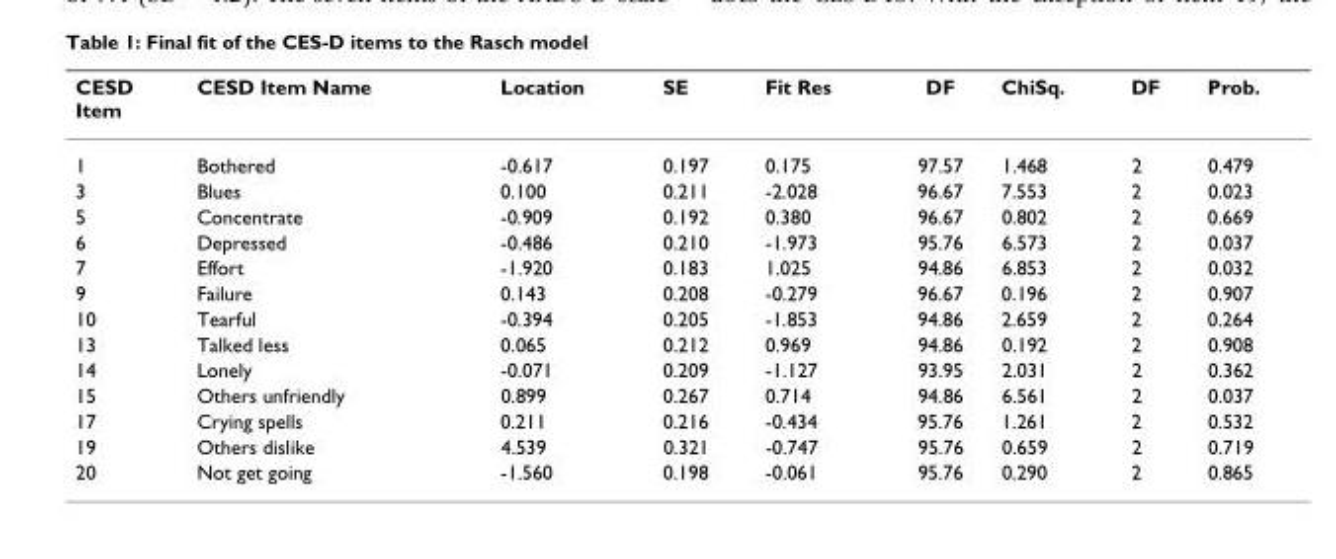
<table><thead><tr><td>CESD Item</td><td>CESD Item Name</td><td>Location</td><td>SE</td><td>Fit Res</td><td>DF</td><td>ChiSq.</td><td>DF</td><td>Prob.</td></tr></thead><tbody><tr><td>1</td><td>Bothered</td><td>-0.617</td><td>0.197</td><td>0.175</td><td>97.57</td><td>1.468</td><td>2</td><td>0.479</td></tr><tr><td>3</td><td>Blues</td><td>0.100</td><td>0.211</td><td>-2.028</td><td>96.67</td><td>7.553</td><td>2</td><td>0.023</td></tr><tr><td>5</td><td>Concentrate</td><td>-0.909</td><td>0.192</td><td>0.380</td><td>96.67</td><td>0.802</td><td>2</td><td>0.669</td></tr><tr><td>6</td><td>Depressed</td><td>-0.486</td><td>0.210</td><td>-1.973</td><td>95.76</td><td>6.573</td><td>2</td><td>0.037</td></tr><tr><td>7</td><td>Effort</td><td>-1.920</td><td>0.183</td><td>1.025</td><td>94.86</td><td>6.853</td><td>2</td><td>0.032</td></tr><tr><td>9</td><td>Failure</td><td>0.143</td><td>0.208</td><td>-0.279</td><td>96.67</td><td>0.196</td><td>2</td><td>0.907</td></tr><tr><td>10</td><td>Tearful</td><td>-0.394</td><td>0.205</td><td>-1.853</td><td>94.86</td><td>2.659</td><td>2</td><td>0.264</td></tr><tr><td>13</td><td>Talked less</td><td>0.065</td><td>0.212</td><td>0.969</td><td>94.86</td><td>0.192</td><td>2</td><td>0.908</td></tr><tr><td>14</td><td>Lonely</td><td>-0.071</td><td>0.209</td><td>-1.127</td><td>93.95</td><td>2.031</td><td>2</td><td>0.362</td></tr><tr><td>15</td><td>Others unfriendly</td><td>0.899</td><td>0.267</td><td>0.714</td><td>94.86</td><td>6.561</td><td>2</td><td>0.037</td></tr><tr><td>17</td><td>Crying spells</td><td>0.211</td><td>0.216</td><td>-0.434</td><td>95.76</td><td>1.261</td><td>2</td><td>0.532</td></tr><tr><td>19</td><td>Others dislike</td><td>4.539</td><td>0.321</td><td>-0.747</td><td>95.76</td><td>0.659</td><td>2</td><td>0.719</td></tr><tr><td>20</td><td>Not get going</td><td>-1.560</td><td>0.198</td><td>-0.061</td><td>95.76</td><td>0.290</td><td>2</td><td>0.865</td></tr></tbody></table>